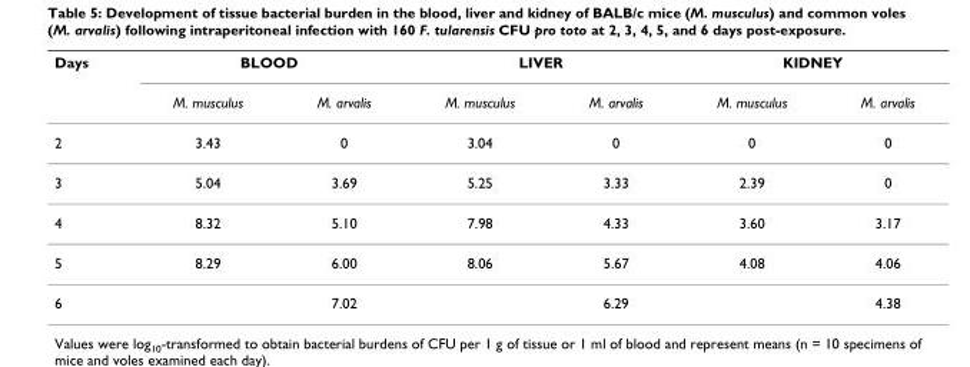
<table><thead><tr><td rowspan="2">Days</td><td colspan="2">BLOOD</td><td colspan="2">LIVER</td><td colspan="2">KIDNEY</td></tr><tr><td>M. musculus</td><td>M. arvalis</td><td>M. musculus</td><td>M. arvalis</td><td>M. musculus</td><td>M. arvalis</td></tr></thead><tbody><tr><td>2</td><td>3.43</td><td>0</td><td>3.04</td><td>0</td><td>0</td><td>0</td></tr><tr><td>3</td><td>5.04</td><td>3.69</td><td>5.25</td><td>3.33</td><td>2.39</td><td>0</td></tr><tr><td>4</td><td>8.32</td><td>5.10</td><td>7.98</td><td>4.33</td><td>3.60</td><td>3.17</td></tr><tr><td>5</td><td>8.29</td><td>6.00</td><td>8.06</td><td>5.67</td><td>4.08</td><td>4.06</td></tr><tr><td>6</td><td></td><td>7.02</td><td></td><td>6.29</td><td></td><td>4.38</td></tr></tbody></table>